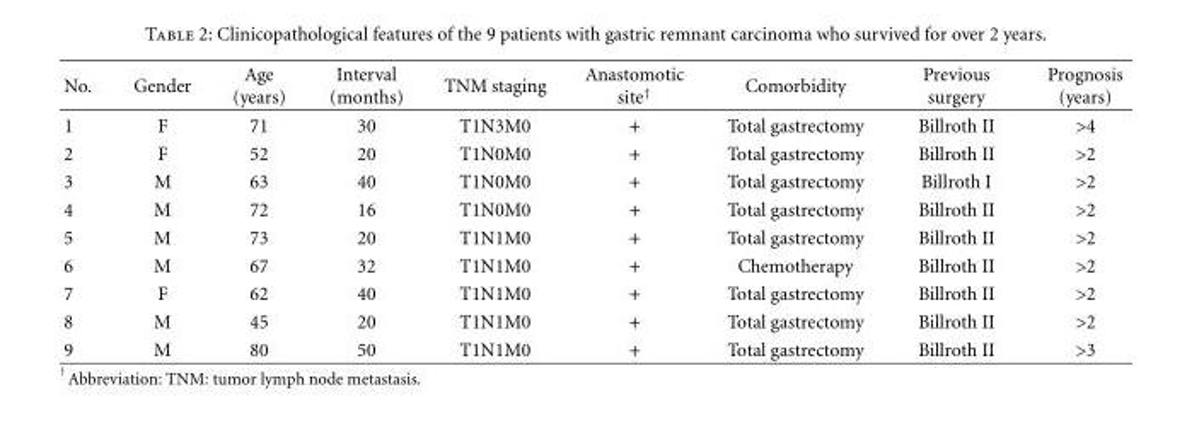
<table><thead><tr><td>No.</td><td>Gender</td><td>Age (years)</td><td>Interval (months)</td><td>TNM staging</td><td>Anastomotic site<sup>†</sup></td><td>Comorbidity</td><td>Previous surgery</td><td>Prognosis (years)</td></tr></thead><tbody><tr><td>1</td><td>F</td><td>71</td><td>30</td><td>T1N3M0</td><td>+</td><td>Total gastrectomy</td><td>Billroth II</td><td>&gt;4</td></tr><tr><td>2</td><td>F</td><td>52</td><td>20</td><td>T1N0M0</td><td>+</td><td>Total gastrectomy</td><td>Billroth II</td><td>&gt;2</td></tr><tr><td>3</td><td>M</td><td>63</td><td>40</td><td>T1N0M0</td><td>+</td><td>Total gastrectomy</td><td>Billroth I</td><td>&gt;2</td></tr><tr><td>4</td><td>M</td><td>72</td><td>16</td><td>T1N0M0</td><td>+</td><td>Total gastrectomy</td><td>Billroth II</td><td>&gt;2</td></tr><tr><td>5</td><td>M</td><td>73</td><td>20</td><td>T1N1M0</td><td>+</td><td>Total gastrectomy</td><td>Billroth II</td><td>&gt;2</td></tr><tr><td>6</td><td>M</td><td>67</td><td>32</td><td>T1N1M0</td><td>+</td><td>Chemotherapy</td><td>Billroth II</td><td>&gt;2</td></tr><tr><td>7</td><td>F</td><td>62</td><td>40</td><td>T1N1M0</td><td>+</td><td>Total gastrectomy</td><td>Billroth II</td><td>&gt;2</td></tr><tr><td>8</td><td>M</td><td>45</td><td>20</td><td>T1N1M0</td><td>+</td><td>Total gastrectomy</td><td>Billroth II</td><td>&gt;2</td></tr><tr><td>9</td><td>M</td><td>80</td><td>50</td><td>T1N1M0</td><td>+</td><td>Total gastrectomy</td><td>Billroth II</td><td>&gt;3</td></tr></tbody></table>